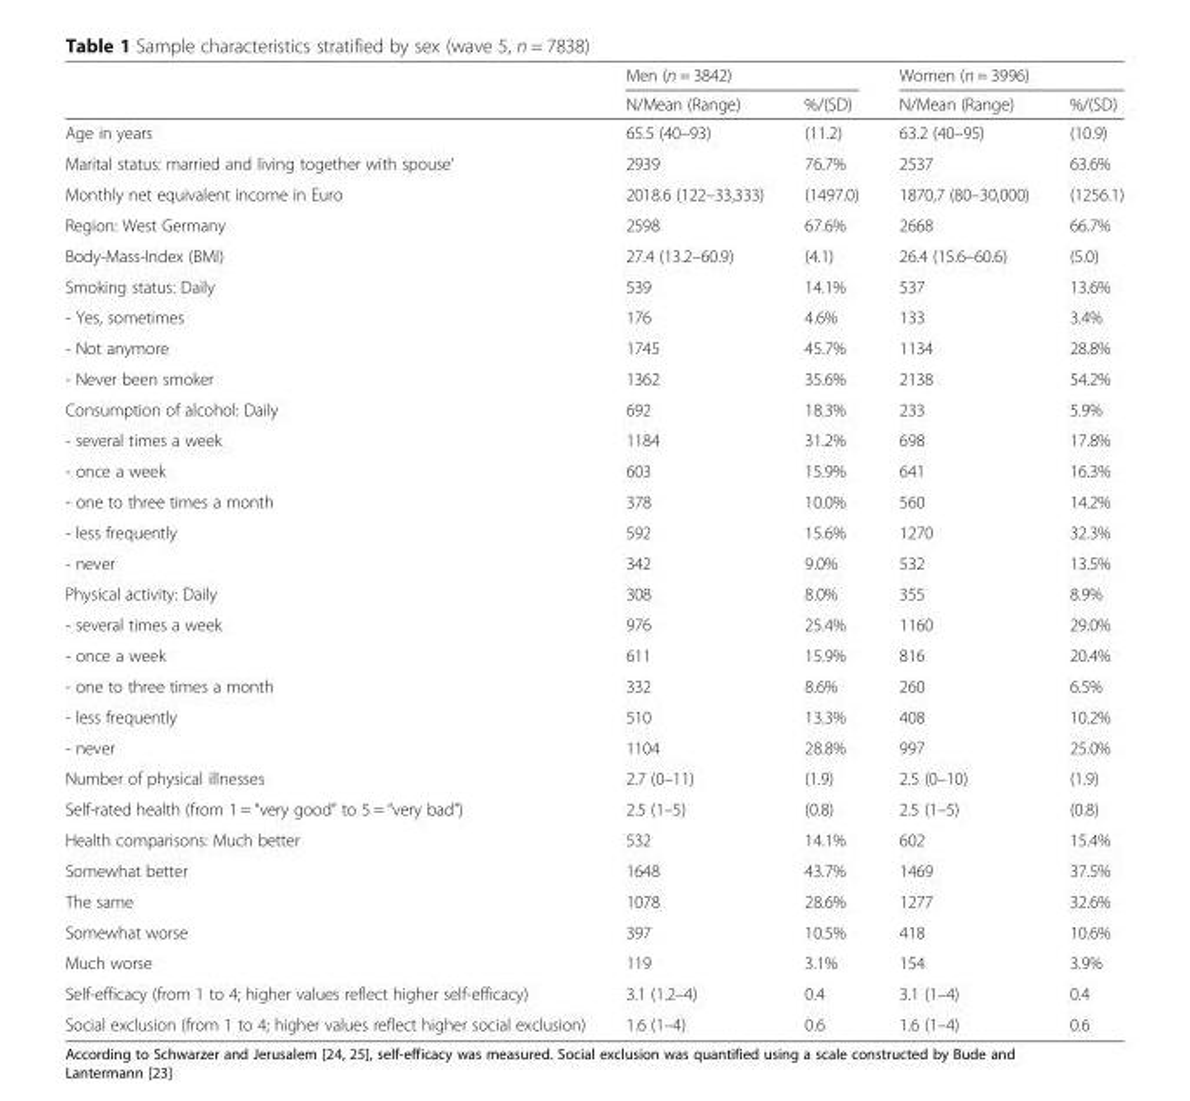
<table><thead><tr><td rowspan="2"></td><td colspan="2">Men (n = 3842)</td><td colspan="2">Women (n = 3996)</td></tr><tr><td>N/Mean (Range)</td><td>%/(SD)</td><td>N/Mean (Range)</td><td>%/(SD)</td></tr></thead><tbody><tr><td>Age in years</td><td>65.5 (40–93)</td><td>(11.2)</td><td>63.2 (40–95)</td><td>(10.9)</td></tr><tr><td>Marital status: married and living together with spouse’</td><td>2939</td><td>76.7%</td><td>2537</td><td>63.6%</td></tr><tr><td>Monthly net equivalent income in Euro</td><td>2018.6 (122–33,333)</td><td>(1497.0)</td><td>1870,7 (80–30,000)</td><td>(1256.1)</td></tr><tr><td>Region: West Germany</td><td>2598</td><td>67.6%</td><td>2668</td><td>66.7%</td></tr><tr><td>Body-Mass-Index (BMI)</td><td>27.4 (13.2–60.9)</td><td>(4.1)</td><td>26.4 (15.6–60.6)</td><td>(5.0)</td></tr><tr><td>Smoking status: Daily</td><td>539</td><td>14.1%</td><td>537</td><td>13.6%</td></tr><tr><td>- Yes, sometimes</td><td>176</td><td>4.6%</td><td>133</td><td>3.4%</td></tr><tr><td>- Not anymore</td><td>1745</td><td>45.7%</td><td>1134</td><td>28.8%</td></tr><tr><td>- Never been smoker</td><td>1362</td><td>35.6%</td><td>2138</td><td>54.2%</td></tr><tr><td>Consumption of alcohol: Daily</td><td>692</td><td>18.3%</td><td>233</td><td>5.9%</td></tr><tr><td>- several times a week</td><td>1184</td><td>31.2%</td><td>698</td><td>17.8%</td></tr><tr><td>- once a week</td><td>603</td><td>15.9%</td><td>641</td><td>16.3%</td></tr><tr><td>- one to three times a month</td><td>378</td><td>10.0%</td><td>560</td><td>14.2%</td></tr><tr><td>- less frequently</td><td>592</td><td>15.6%</td><td>1270</td><td>32.3%</td></tr><tr><td>- never</td><td>342</td><td>9.0%</td><td>532</td><td>13.5%</td></tr><tr><td>Physical activity: Daily</td><td>308</td><td>8.0%</td><td>355</td><td>8.9%</td></tr><tr><td>- several times a week</td><td>976</td><td>25.4%</td><td>1160</td><td>29.0%</td></tr><tr><td>- once a week</td><td>611</td><td>15.9%</td><td>816</td><td>20.4%</td></tr><tr><td>- one to three times a month</td><td>332</td><td>8.6%</td><td>260</td><td>6.5%</td></tr><tr><td>- less frequently</td><td>510</td><td>13.3%</td><td>408</td><td>10.2%</td></tr><tr><td>- never</td><td>1104</td><td>28.8%</td><td>997</td><td>25.0%</td></tr><tr><td>Number of physical illnesses</td><td>2.7 (0–11)</td><td>(1.9)</td><td>2.5 (0–10)</td><td>(1.9)</td></tr><tr><td>Self-rated health (from 1 = “very good” to 5 = “very bad”)</td><td>2.5 (1–5)</td><td>(0.8)</td><td>2.5 (1–5)</td><td>(0.8)</td></tr><tr><td>Health comparisons: Much better</td><td>532</td><td>14.1%</td><td>602</td><td>15.4%</td></tr><tr><td>Somewhat better</td><td>1648</td><td>43.7%</td><td>1469</td><td>37.5%</td></tr><tr><td>The same</td><td>1078</td><td>28.6%</td><td>1277</td><td>32.6%</td></tr><tr><td>Somewhat worse</td><td>397</td><td>10.5%</td><td>418</td><td>10.6%</td></tr><tr><td>Much worse</td><td>119</td><td>3.1%</td><td>154</td><td>3.9%</td></tr><tr><td>Self-efficacy (from 1 to 4; higher values reflect higher self-efficacy)</td><td>3.1 (1.2–4)</td><td>0.4</td><td>3.1 (1–4)</td><td>0.4</td></tr><tr><td>Social exclusion (from 1 to 4; higher values reflect higher social exclusion)</td><td>1.6 (1–4)</td><td>0.6</td><td>1.6 (1–4)</td><td>0.6</td></tr></tbody></table>